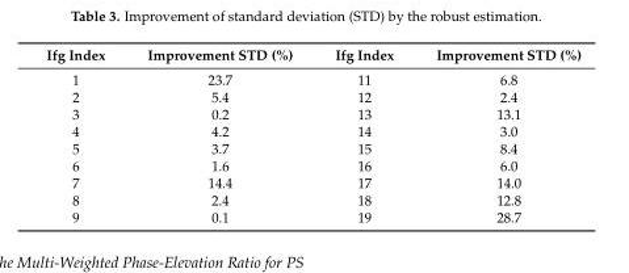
<table><thead><tr><td>Ifg Index</td><td>Improvement STD (%)</td><td>Ifg Index</td><td>Improvement STD (%)</td></tr></thead><tbody><tr><td>1</td><td>23.7</td><td>11</td><td>6.8</td></tr><tr><td>2</td><td>5.4</td><td>12</td><td>2.4</td></tr><tr><td>3</td><td>0.2</td><td>13</td><td>13.1</td></tr><tr><td>4</td><td>4.2</td><td>14</td><td>3.0</td></tr><tr><td>5</td><td>3.7</td><td>15</td><td>8.4</td></tr><tr><td>6</td><td>1.6</td><td>16</td><td>6.0</td></tr><tr><td>7</td><td>14.4</td><td>17</td><td>14.0</td></tr><tr><td>8</td><td>2.4</td><td>18</td><td>12.8</td></tr><tr><td>9</td><td>0.1</td><td>19</td><td>28.7</td></tr></tbody></table>